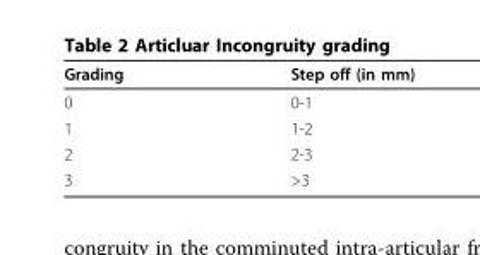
<table><thead><tr><td>Grading</td><td>Step off (in mm)</td></tr></thead><tbody><tr><td>0</td><td>0-1</td></tr><tr><td>1</td><td>1-2</td></tr><tr><td>2</td><td>2-3</td></tr><tr><td>3</td><td>&gt;3</td></tr></tbody></table>